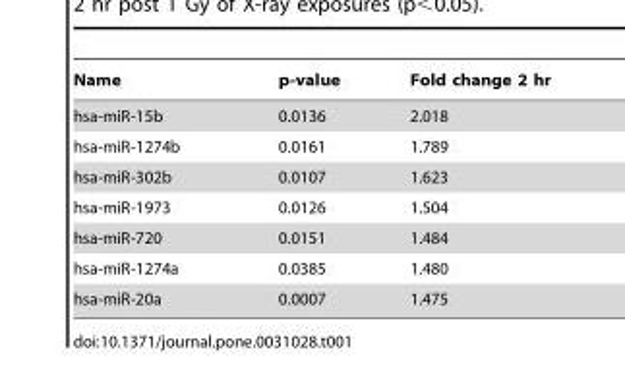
<table><thead><tr><td>Name</td><td>p-value</td><td>Fold change 2 hr</td></tr></thead><tbody><tr><td>hsa-miR-15b</td><td>0.0136</td><td>2.018</td></tr><tr><td>hsa-miR-1274b</td><td>0.0161</td><td>1.789</td></tr><tr><td>hsa-miR-302b</td><td>0.0107</td><td>1.623</td></tr><tr><td>hsa-miR-1973</td><td>0.0126</td><td>1.504</td></tr><tr><td>hsa-miR-720</td><td>0.0151</td><td>1.484</td></tr><tr><td>hsa-miR-1274a</td><td>0.0385</td><td>1.480</td></tr><tr><td>hsa-miR-20a</td><td>0.0007</td><td>1.475</td></tr></tbody></table>